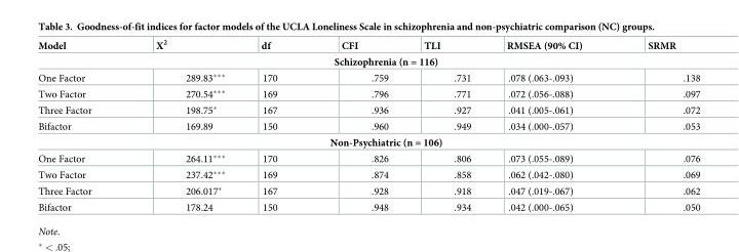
<table><thead><tr><td>Model</td><td>X<sup>2</sup></td><td>df</td><td>CFI</td><td>TLI</td><td>RMSEA (90% CI)</td><td>SRMR</td></tr></thead><tbody><tr><td colspan="7">Schizophrenia (n = 116)</td></tr><tr><td>One Factor</td><td>289.83***</td><td>170</td><td>.759</td><td>.731</td><td>.078 (.063-.093)</td><td>.138</td></tr><tr><td>Two Factor</td><td>270.54***</td><td>169</td><td>.796</td><td>.771</td><td>.072 (.056-.088)</td><td>.097</td></tr><tr><td>Three Factor</td><td>198.75*</td><td>167</td><td>.936</td><td>.927</td><td>.041 (.005-.061)</td><td>.072</td></tr><tr><td>Bifactor</td><td>169.89</td><td>150</td><td>.960</td><td>.949</td><td>.034 (.000-.057)</td><td>.053</td></tr><tr><td colspan="7">Non-Psychiatric (n = 106)</td></tr><tr><td>One Factor</td><td>264.11***</td><td>170</td><td>.826</td><td>.806</td><td>.073 (.055-.089)</td><td>.076</td></tr><tr><td>Two Factor</td><td>237.42***</td><td>169</td><td>.874</td><td>.858</td><td>.062 (.042-.080)</td><td>.069</td></tr><tr><td>Three Factor</td><td>206.017*</td><td>167</td><td>.928</td><td>.918</td><td>.047 (.019-.067)</td><td>.062</td></tr><tr><td>Bifactor</td><td>178.24</td><td>150</td><td>.948</td><td>.934</td><td>.042 (.000-.065)</td><td>.050</td></tr></tbody></table>